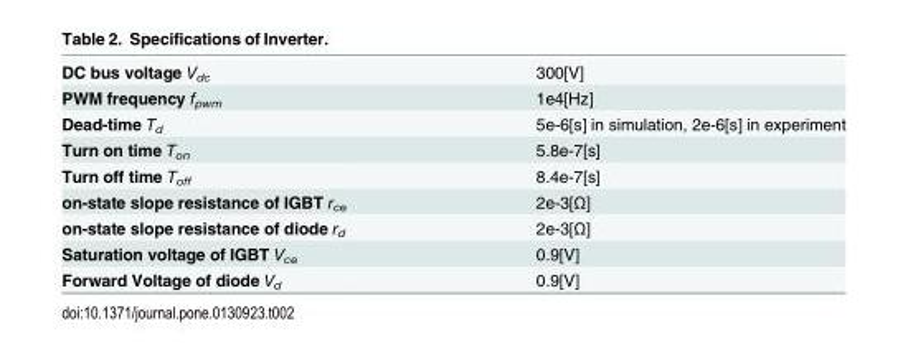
<table><tbody><tr><td>DC bus voltage V<sub>dc</sub></td><td>300[V]</td></tr><tr><td>PWM frequency f<sub>pwm</sub></td><td>1e4[Hz]</td></tr><tr><td>Dead-time T<sub>d</sub></td><td>5e-6[s] in simulation, 2e-6[s] in experiment</td></tr><tr><td>Turn on time T<sub>on</sub></td><td>5.8e-7[s]</td></tr><tr><td>Turn off time T<sub>off</sub></td><td>8.4e-7[s]</td></tr><tr><td>on-state slope resistance of IGBT r<sub>ce</sub></td><td>2e-3[Ω]</td></tr><tr><td>on-state slope resistance of diode r<sub>d</sub></td><td>2e-3[Ω]</td></tr><tr><td>Saturation voltage of IGBT V<sub>ce</sub></td><td>0.9[V]</td></tr><tr><td>Forward Voltage of diode V<sub>d</sub></td><td>0.9[V]</td></tr></tbody></table>